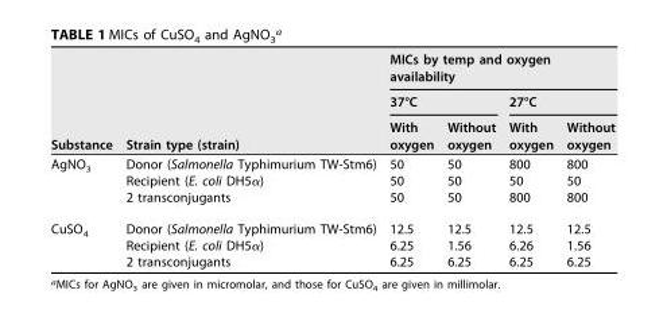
<table><thead><tr><td rowspan="3">Substance</td><td rowspan="3">Strain type (strain)</td><td colspan="4">MICs by temp and oxygen availability</td></tr><tr><td colspan="2">37°C</td><td colspan="2">27°C</td></tr><tr><td>With oxygen</td><td>Without oxygen</td><td>With oxygen</td><td>Without oxygen</td></tr></thead><tbody><tr><td rowspan="3">AgNO<sub>3</sub></td><td>Donor (Salmonella Typhimurium TW-Stm6)</td><td>50</td><td>50</td><td>800</td><td>800</td></tr><tr><td>Recipient (E. coli DH5α)</td><td>50</td><td>50</td><td>50</td><td>50</td></tr><tr><td>2 transconjugants</td><td>50</td><td>50</td><td>800</td><td>800</td></tr><tr><td rowspan="3">CuSO<sub>4</sub></td><td>Donor (Salmonella Typhimurium TW-Stm6)</td><td>12.5</td><td>12.5</td><td>12.5</td><td>12.5</td></tr><tr><td>Recipient (E. coli DH5α)</td><td>6.25</td><td>1.56</td><td>6.26</td><td>1.56</td></tr><tr><td>2 transconjugants</td><td>6.25</td><td>6.25</td><td>6.25</td><td>6.25</td></tr></tbody></table>